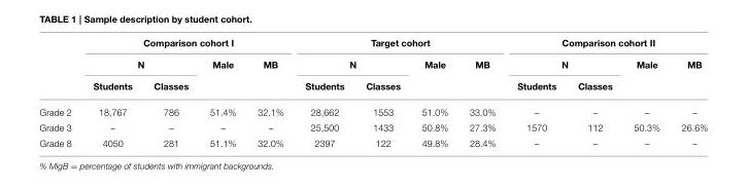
<table><thead><tr><td rowspan="3"></td><td colspan="4">Comparison cohort I</td><td colspan="4">Target cohort</td><td colspan="4">Comparison cohort II</td></tr><tr><td colspan="2">N</td><td rowspan="2">Male</td><td rowspan="2">MB</td><td colspan="2">N</td><td rowspan="2">Male</td><td rowspan="2">MB</td><td colspan="2">N</td><td rowspan="2">Male</td><td rowspan="2">MB</td></tr><tr><td>Students</td><td>Classes</td><td>Students</td><td>Classes</td><td>Students</td><td>Classes</td></tr></thead><tbody><tr><td>Grade 2</td><td>18,767</td><td>786</td><td>51.4%</td><td>32.1%</td><td>28,662</td><td>1553</td><td>51.0%</td><td>33.0%</td><td>–</td><td>–</td><td>–</td><td>–</td></tr><tr><td>Grade 3</td><td>–</td><td>–</td><td>–</td><td>–</td><td>25,500</td><td>1433</td><td>50.8%</td><td>27.3%</td><td>1570</td><td>112</td><td>50.3%</td><td>26.6%</td></tr><tr><td>Grade 8</td><td>4050</td><td>281</td><td>51.1%</td><td>32.0%</td><td>2397</td><td>122</td><td>49.8%</td><td>28.4%</td><td>–</td><td>–</td><td>–</td><td>–</td></tr></tbody></table>